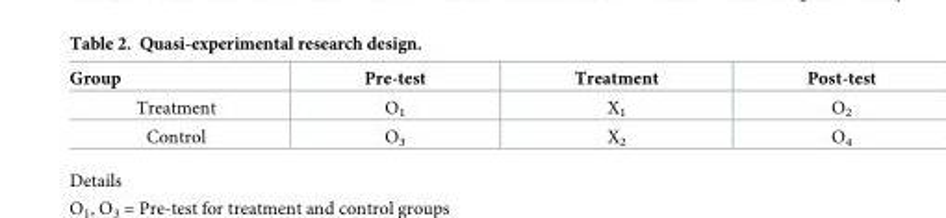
<table><thead><tr><td>Group</td><td>Pre-test</td><td>Treatment</td><td>Post-test</td></tr></thead><tbody><tr><td>Treatment</td><td>O<sub>1</sub></td><td>X<sub>1</sub></td><td>O<sub>2</sub></td></tr><tr><td>Control</td><td>O<sub>3</sub></td><td>X<sub>2</sub></td><td>O<sub>4</sub></td></tr></tbody></table>